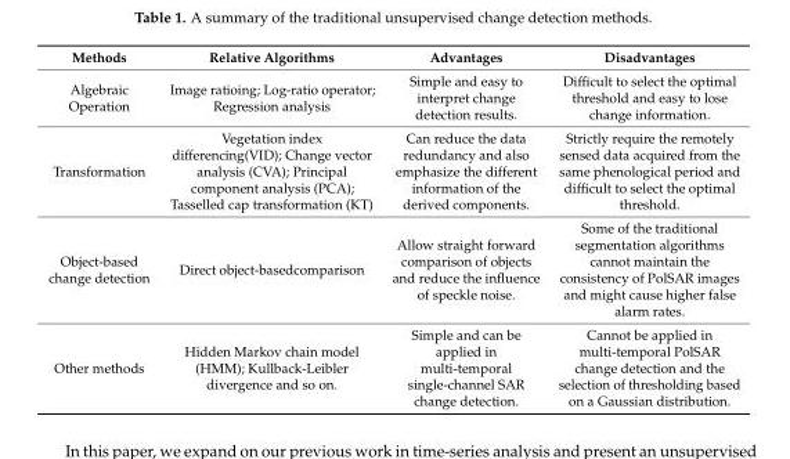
<table><thead><tr><td>Methods</td><td>Relative Algorithms</td><td>Advantages</td><td>Disadvantages</td></tr></thead><tbody><tr><td>Algebraic Operation</td><td>Image ratioing; Log-ratio operator; Regression analysis</td><td>Simple and easy to interpret change detection results.</td><td>Difficult to select the optimal threshold and easy to lose change information.</td></tr><tr><td>Transformation</td><td>Vegetation index differencing(VID); Change vector analysis (CVA); Principal component analysis (PCA); Tasselled cap transformation (KT)</td><td>Can reduce the data redundancy and also emphasize the different information of the derived components.</td><td>Strictly require the remotely sensed data acquired from the same phenological period and difficult to select the optimal threshold.</td></tr><tr><td>Object-based change detection</td><td>Direct object-basedcomparison</td><td>Allow straight forward comparison of objects and reduce the influence of speckle noise.</td><td>Some of the traditional segmentation algorithms cannot maintain the consistency of PolSAR images and might cause higher false alarm rates.</td></tr><tr><td>Other methods</td><td>Hidden Markov chain model (HMM); Kullback-Leibler divergence and so on.</td><td>Simple and can be applied in multi-temporal single-channel SAR change detection.</td><td>Cannot be applied in multi-temporal PolSAR change detection and the selection of thresholding based on a Gaussian distribution.</td></tr></tbody></table>